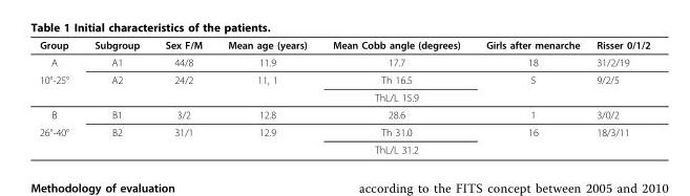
<table><thead><tr><td>Group</td><td>Subgroup</td><td>Sex F/M</td><td>Mean age (years)</td><td>Mean Cobb angle (degrees)</td><td>Girls after menarche</td><td>Risser 0/1/2</td></tr></thead><tbody><tr><td>A</td><td>A1</td><td>44/8</td><td>11.9</td><td>17.7</td><td>18</td><td>31/2/19</td></tr><tr><td rowspan="2">10°-25°</td><td>A2</td><td>24/2</td><td>11, 1</td><td>Th 16.5</td><td>5</td><td>9/2/5</td></tr><tr><td></td><td></td><td></td><td>ThL/L 15.9</td><td></td><td></td></tr><tr><td>B</td><td>B1</td><td>3/2</td><td>12.8</td><td>28.6</td><td>1</td><td>3/0/2</td></tr><tr><td rowspan="2">26°-40°</td><td>B2</td><td>31/1</td><td>12.9</td><td>Th 31.0</td><td>16</td><td>18/3/11</td></tr><tr><td></td><td></td><td></td><td>ThL/L 31.2</td><td></td><td></td></tr></tbody></table>